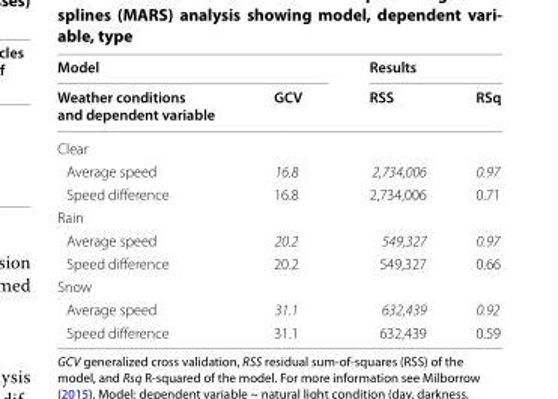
<table><thead><tr><td colspan="2">Model</td><td colspan="2">Results</td></tr><tr><td>Weather conditions and dependent variable</td><td>GCV</td><td>RSS</td><td>RSq</td></tr></thead><tbody><tr><td colspan="4">Clear</td></tr><tr><td>Average speed</td><td>16.8</td><td>2,734,006</td><td>0.97</td></tr><tr><td>Speed difference</td><td>16.8</td><td>2,734,006</td><td>0.71</td></tr><tr><td colspan="4">Rain</td></tr><tr><td>Average speed</td><td>20.2</td><td>549,327</td><td>0.97</td></tr><tr><td>Speed difference</td><td>20.2</td><td>549,327</td><td>0.66</td></tr><tr><td colspan="4">Snow</td></tr><tr><td>Average speed</td><td>31.1</td><td>632,439</td><td>0.92</td></tr><tr><td>Speed difference</td><td>31.1</td><td>632,439</td><td>0.59</td></tr></tbody></table>